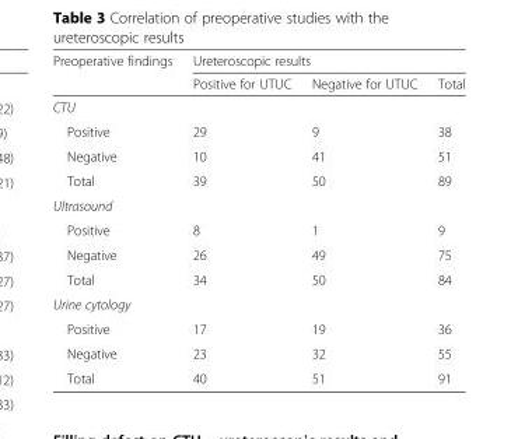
<table><thead><tr><td rowspan="2">Preoperative findings</td><td colspan="3">Ureteroscopic results</td></tr><tr><td>Positive for UTUC</td><td>Negative for UTUC</td><td>Total</td></tr></thead><tbody><tr><td colspan="4">CTU</td></tr><tr><td>Positive</td><td>29</td><td>9</td><td>38</td></tr><tr><td>Negative</td><td>10</td><td>41</td><td>51</td></tr><tr><td>Total</td><td>39</td><td>50</td><td>89</td></tr><tr><td colspan="4">Ultrasound</td></tr><tr><td>Positive</td><td>8</td><td>1</td><td>9</td></tr><tr><td>Negative</td><td>26</td><td>49</td><td>75</td></tr><tr><td>Total</td><td>34</td><td>50</td><td>84</td></tr><tr><td colspan="4">Urine cytology</td></tr><tr><td>Positive</td><td>17</td><td>19</td><td>36</td></tr><tr><td>Negative</td><td>23</td><td>32</td><td>55</td></tr><tr><td>Total</td><td>40</td><td>51</td><td>91</td></tr></tbody></table>